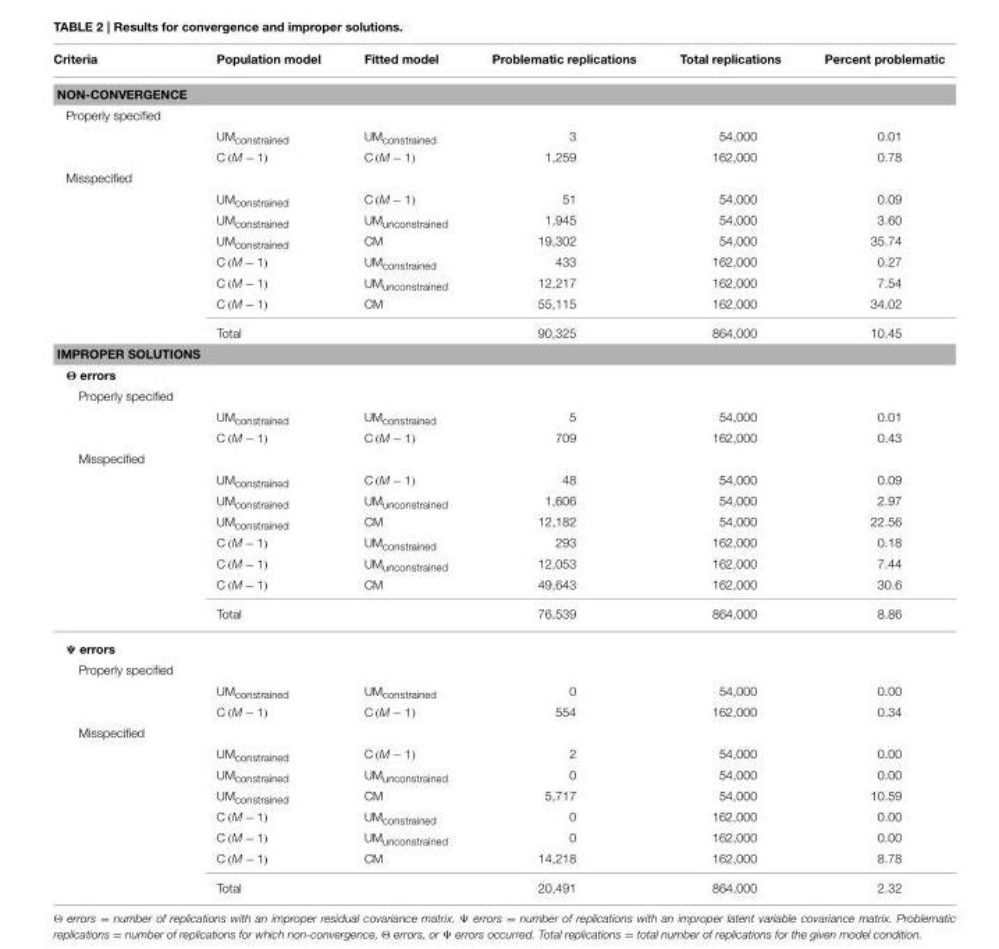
<table><thead><tr><td>Criteria</td><td>Population model</td><td>Fitted model</td><td>Problematic replications</td><td>Total replications</td><td>Percent problematic</td></tr></thead><tbody><tr><td colspan="6">NON-CONVERGENCE</td></tr><tr><td colspan="6">Properly specified</td></tr><tr><td></td><td>UM<sub>constrained</sub></td><td>UM<sub>constrained</sub></td><td>3</td><td>54,000</td><td>0.01</td></tr><tr><td></td><td>C (M − 1)</td><td>C (M − 1)</td><td>1,259</td><td>162,000</td><td>0.78</td></tr><tr><td colspan="6">Misspecified</td></tr><tr><td></td><td>UM<sub>constrained</sub></td><td>C (M − 1)</td><td>51</td><td>54,000</td><td>0.09</td></tr><tr><td></td><td>UM<sub>constrained</sub></td><td>UM<sub>unconstrained</sub></td><td>1,945</td><td>54,000</td><td>3.60</td></tr><tr><td></td><td>UM<sub>constrained</sub></td><td>CM</td><td>19,302</td><td>54,000</td><td>35.74</td></tr><tr><td></td><td>C (M − 1)</td><td>UM<sub>constrained</sub></td><td>433</td><td>162,000</td><td>0.27</td></tr><tr><td></td><td>C (M − 1)</td><td>UM<sub>unconstrained</sub></td><td>12,217</td><td>162,000</td><td>7.54</td></tr><tr><td></td><td>C (M − 1)</td><td>CM</td><td>55,115</td><td>162,000</td><td>34.02</td></tr><tr><td></td><td>Total</td><td></td><td>90,325</td><td>864,000</td><td>10.45</td></tr><tr><td colspan="6">IMPROPER SOLUTIONS</td></tr><tr><td colspan="6">Θ errors</td></tr><tr><td colspan="6">Properly specified</td></tr><tr><td></td><td>UM<sub>constrained</sub></td><td>UM<sub>constrained</sub></td><td>5</td><td>54,000</td><td>0.01</td></tr><tr><td></td><td>C (M − 1)</td><td>C (M − 1)</td><td>709</td><td>162,000</td><td>0.43</td></tr><tr><td colspan="6">Misspecified</td></tr><tr><td></td><td>UM<sub>constrained</sub></td><td>C (M − 1)</td><td>48</td><td>54,000</td><td>0.09</td></tr><tr><td></td><td>UM<sub>constrained</sub></td><td>UM<sub>unconstrained</sub></td><td>1,606</td><td>54,000</td><td>2.97</td></tr><tr><td></td><td>UM<sub>constrained</sub></td><td>CM</td><td>12,182</td><td>54,000</td><td>22.56</td></tr><tr><td></td><td>C (M − 1)</td><td>UM<sub>constrained</sub></td><td>293</td><td>162,000</td><td>0.18</td></tr><tr><td></td><td>C (M − 1)</td><td>UM<sub>unconstrained</sub></td><td>12,053</td><td>162,000</td><td>7.44</td></tr><tr><td></td><td>C (M − 1)</td><td>CM</td><td>49,643</td><td>162,000</td><td>30.6</td></tr><tr><td></td><td>Total</td><td></td><td>76,539</td><td>864,000</td><td>8.86</td></tr><tr><td colspan="6">Ψ errors</td></tr><tr><td colspan="6">Properly specified</td></tr><tr><td></td><td>UM<sub>constrained</sub></td><td>UM<sub>constrained</sub></td><td>0</td><td>54,000</td><td>0.00</td></tr><tr><td></td><td>C (M − 1)</td><td>C (M − 1)</td><td>554</td><td>162,000</td><td>0.34</td></tr><tr><td colspan="6">Misspecified</td></tr><tr><td></td><td>UM<sub>constrained</sub></td><td>C (M − 1)</td><td>2</td><td>54,000</td><td>0.00</td></tr><tr><td></td><td>UM<sub>constrained</sub></td><td>UM<sub>unconstrained</sub></td><td>0</td><td>54,000</td><td>0.00</td></tr><tr><td></td><td>UM<sub>constrained</sub></td><td>CM</td><td>5,717</td><td>54,000</td><td>10.59</td></tr><tr><td></td><td>C (M − 1)</td><td>UM<sub>constrained</sub></td><td>0</td><td>162,000</td><td>0.00</td></tr><tr><td></td><td>C (M − 1)</td><td>UM<sub>unconstrained</sub></td><td>0</td><td>162,000</td><td>0.00</td></tr><tr><td></td><td>C (M − 1)</td><td>CM</td><td>14,218</td><td>162,000</td><td>8.78</td></tr><tr><td></td><td>Total</td><td></td><td>20,491</td><td>864,000</td><td>2.32</td></tr></tbody></table>